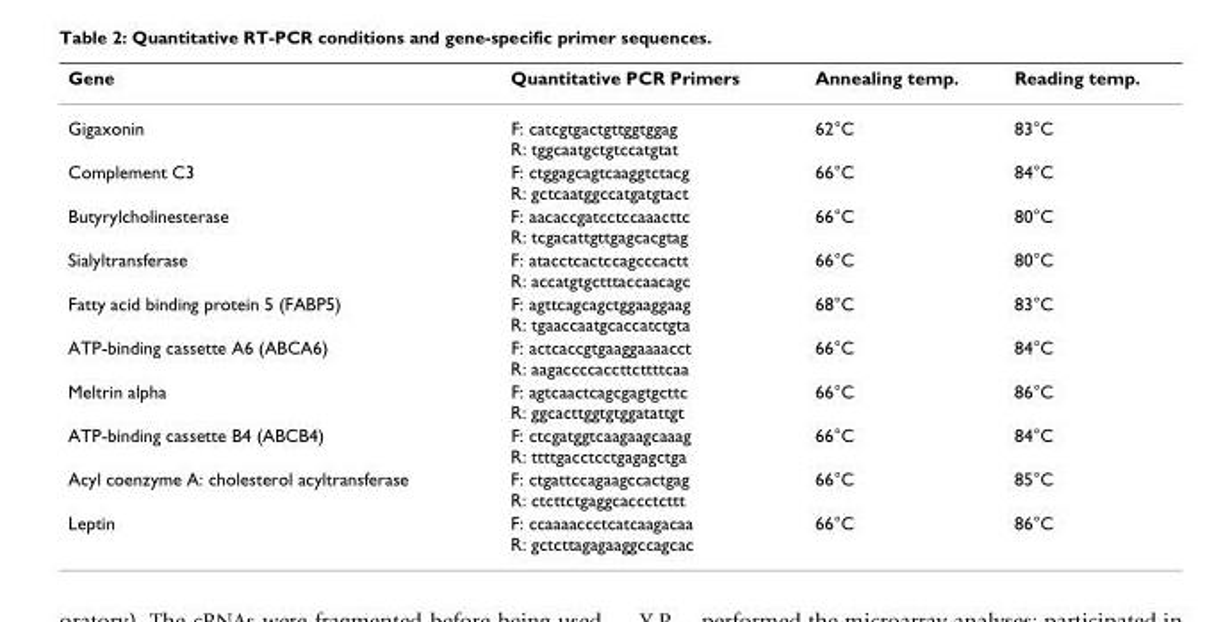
<table><thead><tr><td>Gene</td><td>Quantitative PCR Primers</td><td>Annealing temp.</td><td>Reading temp.</td></tr></thead><tbody><tr><td>Gigaxonin</td><td>F: catcgtgactgttggtggag R: tggcaatgctgtccatgtat</td><td>62°C</td><td>83°C</td></tr><tr><td>Complement C3</td><td>F: ctggagcagtcaaggtctacg R: gctcaatggccatgatgtact</td><td>66°C</td><td>84°C</td></tr><tr><td>Butyrylcholinesterase</td><td>F: aacaccgatcctccaaacttc R: tcgacattgttgagcacgtag</td><td>66°C</td><td>80°C</td></tr><tr><td>Sialyltransferase</td><td>F: atacctcactccagcccactt R: accatgtgctttaccaacagc</td><td>66°C</td><td>80°C</td></tr><tr><td>Fatty acid binding protein 5 (FABP5)</td><td>F: agttcagcagctggaaggaag R: tgaaccaatgcaccatctgta</td><td>68°C</td><td>83°C</td></tr><tr><td>ATP-binding cassette A6 (ABCA6)</td><td>F: actcaccgtgaaggaaaacct R: aagaccccaccttcttttcaa</td><td>66°C</td><td>84°C</td></tr><tr><td>Meltrin alpha</td><td>F: agtcaactcagcgagtgcttc R: ggcacttggtgtggatattgt</td><td>66°C</td><td>86°C</td></tr><tr><td>ATP-binding cassette B4 (ABCB4)</td><td>F: ctcgatggtcaagaagcaaag R: ttttgacctcctgagagctga</td><td>66°C</td><td>84°C</td></tr><tr><td>Acyl coenzyme A: cholesterol acyltransferase</td><td>F: ctgattccagaagccactgag R: ctcttctgaggcaccctcttt</td><td>66°C</td><td>85°C</td></tr><tr><td>Leptin</td><td>F: ccaaaaccctcatcaagacaa R: gctcttagagaaggccagcac</td><td>66°C</td><td>86°C</td></tr></tbody></table>